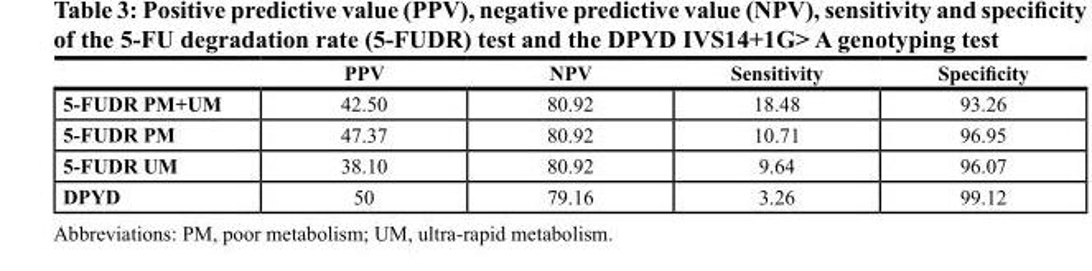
<table><thead><tr><td></td><td>PPV</td><td>NPV</td><td>Sensitivity</td><td>Specificity</td></tr></thead><tbody><tr><td>5-FUDR PM+UM</td><td>42.50</td><td>80.92</td><td>18.48</td><td>93.26</td></tr><tr><td>5-FUDR PM</td><td>47.37</td><td>80.92</td><td>10.71</td><td>96.95</td></tr><tr><td>5-FUDR UM</td><td>38.10</td><td>80.92</td><td>9.64</td><td>96.07</td></tr><tr><td>DPYD</td><td>50</td><td>79.16</td><td>3.26</td><td>99.12</td></tr></tbody></table>